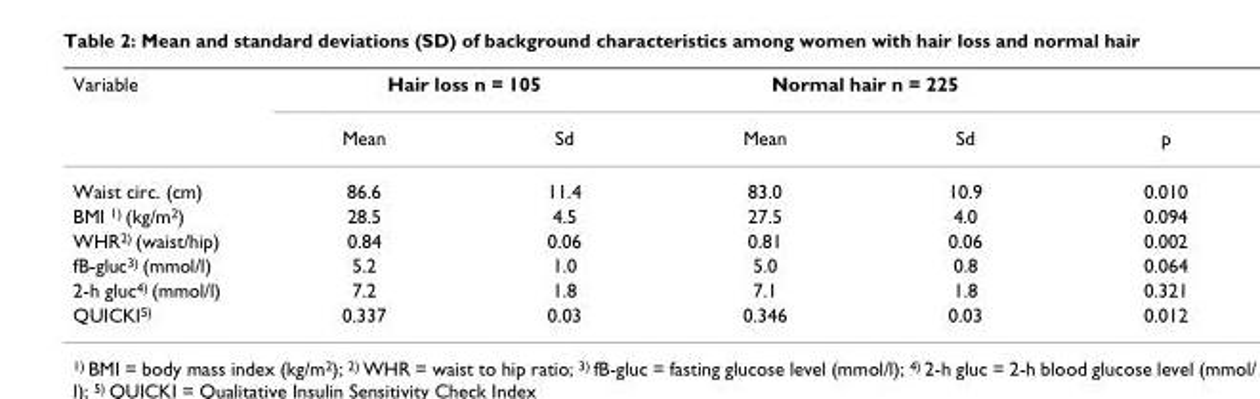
<table><thead><tr><td rowspan="2">Variable</td><td colspan="2">Hair loss n = 105</td><td colspan="2">Normal hair n = 225</td><td rowspan="2">p</td></tr><tr><td>Mean</td><td>Sd</td><td>Mean</td><td>Sd</td></tr></thead><tbody><tr><td>Waist circ. (cm)</td><td>86.6</td><td>11.4</td><td>83.0</td><td>10.9</td><td>0.010</td></tr><tr><td>BMI <sup>1)</sup> (kg/m<sup>2</sup>)</td><td>28.5</td><td>4.5</td><td>27.5</td><td>4.0</td><td>0.094</td></tr><tr><td>WHR<sup>2)</sup> (waist/hip)</td><td>0.84</td><td>0.06</td><td>0.81</td><td>0.06</td><td>0.002</td></tr><tr><td>fB-gluc<sup>3)</sup> (mmol/l)</td><td>5.2</td><td>1.0</td><td>5.0</td><td>0.8</td><td>0.064</td></tr><tr><td>2-h gluc<sup>4)</sup> (mmol/l)</td><td>7.2</td><td>1.8</td><td>7.1</td><td>1.8</td><td>0.321</td></tr><tr><td>QUICKI<sup>5)</sup></td><td>0.337</td><td>0.03</td><td>0.346</td><td>0.03</td><td>0.012</td></tr></tbody></table>